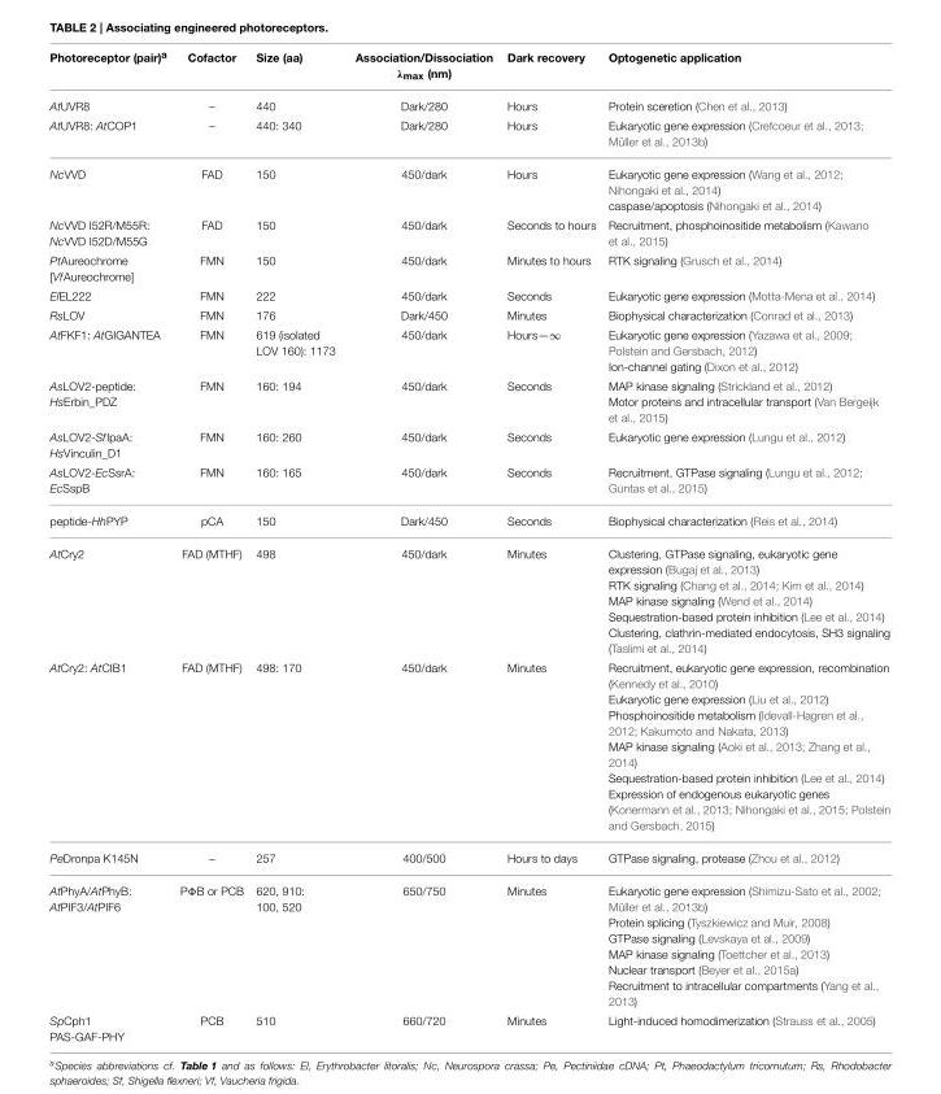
<table><thead><tr><td>Photoreceptor (pair)<sup>a</sup></td><td>Cofactor</td><td>Size (aa)</td><td>Association/Dissociation λ<sub>max</sub> (nm)</td><td>Dark recovery</td><td>Optogenetic application</td></tr></thead><tbody><tr><td>AtUVR8</td><td>–</td><td>440</td><td>Dark/280</td><td>Hours</td><td>Protein sceretion (Chen et al., 2013)</td></tr><tr><td>AtUVR8: AtCOP1</td><td>–</td><td>440: 340</td><td>Dark/280</td><td>Hours</td><td>Eukaryotic gene expression (Crefcoeur et al., 2013; Müller et al., 2013b)</td></tr><tr><td>NcVVD</td><td>FAD</td><td>150</td><td>450/dark</td><td>Hours</td><td>Eukaryotic gene expression (Wang et al., 2012; Nihongaki et al., 2014) caspase/apoptosis (Nihongaki et al., 2014)</td></tr><tr><td>NcVVD I52R/M55R: NcVVD I52D/M55G</td><td>FAD</td><td>150</td><td>450/dark</td><td>Seconds to hours</td><td>Recruitment, phosphoinositide metabolism (Kawano et al., 2015)</td></tr><tr><td>PtAureochrome [VfAureochrome]</td><td>FMN</td><td>150</td><td>450/dark</td><td>Minutes to hours</td><td>RTK signaling (Grusch et al., 2014)</td></tr><tr><td>ElEL222</td><td>FMN</td><td>222</td><td>450/dark</td><td>Seconds</td><td>Eukaryotic gene expression (Motta-Mena et al., 2014)</td></tr><tr><td>RsLOV</td><td>FMN</td><td>176</td><td>Dark/450</td><td>Minutes</td><td>Biophysical characterization (Conrad et al., 2013)</td></tr><tr><td>AtFKF1: AtGIGANTEA</td><td>FMN</td><td>619 (isolated LOV 160): 1173</td><td>450/dark</td><td>Hours—∞</td><td>Eukaryotic gene expression (Yazawa et al., 2009; Polstein and Gersbach, 2012) Ion-channel gating (Dixon et al., 2012)</td></tr><tr><td>AsLOV2-peptide: HsErbin_PDZ</td><td>FMN</td><td>160: 194</td><td>450/dark</td><td>Seconds</td><td>MAP kinase signaling (Strickland et al., 2012) Motor proteins and intracellular transport (Van Bergeijk et al., 2015)</td></tr><tr><td>AsLOV2-SfIpaA: HsVinculin_D1</td><td>FMN</td><td>160: 260</td><td>450/dark</td><td>Seconds</td><td>Eukaryotic gene expression (Lungu et al., 2012)</td></tr><tr><td>AsLOV2-EcSsrA: EcSspB</td><td>FMN</td><td>160: 165</td><td>450/dark</td><td>Seconds</td><td>Recruitment, GTPase signaling (Lungu et al., 2012; Guntas et al., 2015)</td></tr><tr><td>peptide-HhPYP</td><td>pCA</td><td>150</td><td>Dark/450</td><td>Seconds</td><td>Biophysical characterization (Reis et al., 2014)</td></tr><tr><td>AtCry2</td><td>FAD (MTHF)</td><td>498</td><td>450/dark</td><td>Minutes</td><td>Clustering, GTPase signaling, eukaryotic gene expression (Bugaj et al., 2013) RTK signaling (Chang et al., 2014; Kim et al., 2014) MAP kinase signaling (Wend et al., 2014) Sequestration-based protein inhibition (Lee et al., 2014) Clustering, clathrin-mediated endocytosis, SH3 signaling (Taslimi et al., 2014)</td></tr><tr><td>AtCry2: AtCIB1</td><td>FAD (MTHF)</td><td>498: 170</td><td>450/dark</td><td>Minutes</td><td>Recruitment, eukaryotic gene expression, recombination (Kennedy et al., 2010) Eukaryotic gene expression (Liu et al., 2012) Phosphoinositide metabolism (Idevall-Hagren et al., 2012; Kakumoto and Nakata, 2013) MAP kinase signaling (Aoki et al., 2013; Zhang et al., 2014) Sequestration-based protein inhibition (Lee et al., 2014) Expression of endogenous eukaryotic genes (Konermann et al., 2013; Nihongaki et al., 2015; Polstein and Gersbach, 2015)</td></tr><tr><td>PeDronpa K145N</td><td>–</td><td>257</td><td>400/500</td><td>Hours to days</td><td>GTPase signaling, protease (Zhou et al., 2012)</td></tr><tr><td>AtPhyA/AtPhyB: AtPIF3/AtPIF6</td><td>PΦB or PCB</td><td>620, 910: 100, 520</td><td>650/750</td><td>Minutes</td><td>Eukaryotic gene expression (Shimizu-Sato et al., 2002; Müller et al., 2013b) Protein splicing (Tyszkiewicz and Muir, 2008) GTPase signaling (Levskaya et al., 2009) MAP kinase signaling (Toettcher et al., 2013) Nuclear transport (Beyer et al., 2015a) Recruitment to intracellular compartments (Yang et al., 2013)</td></tr><tr><td>SpCph1 PAS-GAF-PHY</td><td>PCB</td><td>510</td><td>660/720</td><td>Minutes</td><td>Light-induced homodimerization (Strauss et al., 2005)</td></tr></tbody></table>